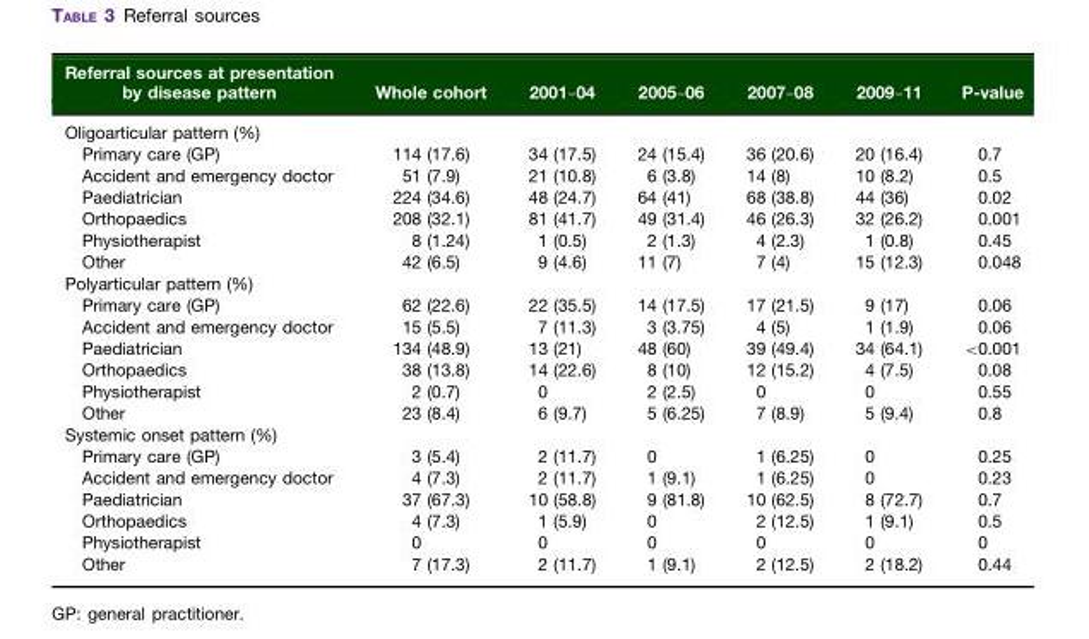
<table><thead><tr><td>Referral sources at presentation by disease pattern</td><td>Whole cohort</td><td>2001–04</td><td>2005–06</td><td>2007–08</td><td>2009–11</td><td>P-value</td></tr></thead><tbody><tr><td colspan="7">Oligoarticular pattern (%)</td></tr><tr><td>Primary care (GP)</td><td>114 (17.6)</td><td>34 (17.5)</td><td>24 (15.4)</td><td>36 (20.6)</td><td>20 (16.4)</td><td>0.7</td></tr><tr><td>Accident and emergency doctor</td><td>51 (7.9)</td><td>21 (10.8)</td><td>6 (3.8)</td><td>14 (8)</td><td>10 (8.2)</td><td>0.5</td></tr><tr><td>Paediatrician</td><td>224 (34.6)</td><td>48 (24.7)</td><td>64 (41)</td><td>68 (38.8)</td><td>44 (36)</td><td>0.02</td></tr><tr><td>Orthopaedics</td><td>208 (32.1)</td><td>81 (41.7)</td><td>49 (31.4)</td><td>46 (26.3)</td><td>32 (26.2)</td><td>0.001</td></tr><tr><td>Physiotherapist</td><td>8 (1.24)</td><td>1 (0.5)</td><td>2 (1.3)</td><td>4 (2.3)</td><td>1 (0.8)</td><td>0.45</td></tr><tr><td>Other</td><td>42 (6.5)</td><td>9 (4.6)</td><td>11 (7)</td><td>7 (4)</td><td>15 (12.3)</td><td>0.048</td></tr><tr><td colspan="7">Polyarticular pattern (%)</td></tr><tr><td>Primary care (GP)</td><td>62 (22.6)</td><td>22 (35.5)</td><td>14 (17.5)</td><td>17 (21.5)</td><td>9 (17)</td><td>0.06</td></tr><tr><td>Accident and emergency doctor</td><td>15 (5.5)</td><td>7 (11.3)</td><td>3 (3.75)</td><td>4 (5)</td><td>1 (1.9)</td><td>0.06</td></tr><tr><td>Paediatrician</td><td>134 (48.9)</td><td>13 (21)</td><td>48 (60)</td><td>39 (49.4)</td><td>34 (64.1)</td><td>&lt;0.001</td></tr><tr><td>Orthopaedics</td><td>38 (13.8)</td><td>14 (22.6)</td><td>8 (10)</td><td>12 (15.2)</td><td>4 (7.5)</td><td>0.08</td></tr><tr><td>Physiotherapist</td><td>2 (0.7)</td><td>0</td><td>2 (2.5)</td><td>0</td><td>0</td><td>0.55</td></tr><tr><td>Other</td><td>23 (8.4)</td><td>6 (9.7)</td><td>5 (6.25)</td><td>7 (8.9)</td><td>5 (9.4)</td><td>0.8</td></tr><tr><td colspan="7">Systemic onset pattern (%)</td></tr><tr><td>Primary care (GP)</td><td>3 (5.4)</td><td>2 (11.7)</td><td>0</td><td>1 (6.25)</td><td>0</td><td>0.25</td></tr><tr><td>Accident and emergency doctor</td><td>4 (7.3)</td><td>2 (11.7)</td><td>1 (9.1)</td><td>1 (6.25)</td><td>0</td><td>0.23</td></tr><tr><td>Paediatrician</td><td>37 (67.3)</td><td>10 (58.8)</td><td>9 (81.8)</td><td>10 (62.5)</td><td>8 (72.7)</td><td>0.7</td></tr><tr><td>Orthopaedics</td><td>4 (7.3)</td><td>1 (5.9)</td><td>0</td><td>2 (12.5)</td><td>1 (9.1)</td><td>0.5</td></tr><tr><td>Physiotherapist</td><td>0</td><td>0</td><td>0</td><td>0</td><td>0</td><td>0</td></tr><tr><td>Other</td><td>7 (17.3)</td><td>2 (11.7)</td><td>1 (9.1)</td><td>2 (12.5)</td><td>2 (18.2)</td><td>0.44</td></tr></tbody></table>